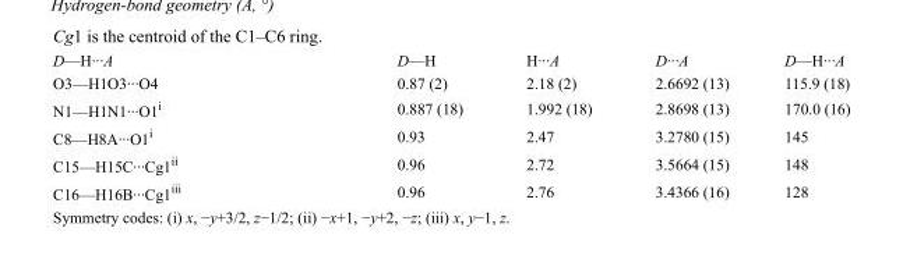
<table><tbody><tr><td>D—H···A</td><td>D—H</td><td>H···A</td><td>D···A</td><td>D—H···A</td></tr><tr><td>O3—H1O3···O4</td><td>0.87 (2)</td><td>2.18 (2)</td><td>2.6692 (13)</td><td>115.9 (18)</td></tr><tr><td>N1—H1N1···O1<sup>i</sup></td><td>0.887 (18)</td><td>1.992 (18)</td><td>2.8698 (13)</td><td>170.0 (16)</td></tr><tr><td>C8—H8A···O1<sup>i</sup></td><td>0.93</td><td>2.47</td><td>3.2780 (15)</td><td>145</td></tr><tr><td>C15—H15C···Cg1<sup>ii</sup></td><td>0.96</td><td>2.72</td><td>3.5664 (15)</td><td>148</td></tr><tr><td>C16—H16B···Cg1<sup>iii</sup></td><td>0.96</td><td>2.76</td><td>3.4366 (16)</td><td>128</td></tr></tbody></table>